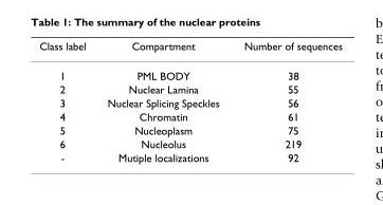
<table><thead><tr><td>Class label</td><td>Compartment</td><td>Number of sequences</td></tr></thead><tbody><tr><td>1</td><td>PML BODY</td><td>38</td></tr><tr><td>2</td><td>Nuclear Lamina</td><td>55</td></tr><tr><td>3</td><td>Nuclear Splicing Speckles</td><td>56</td></tr><tr><td>4</td><td>Chromatin</td><td>61</td></tr><tr><td>5</td><td>Nucleoplasm</td><td>75</td></tr><tr><td>6</td><td>Nucleolus</td><td>219</td></tr><tr><td>-</td><td>Mutiple localizations</td><td>92</td></tr></tbody></table>